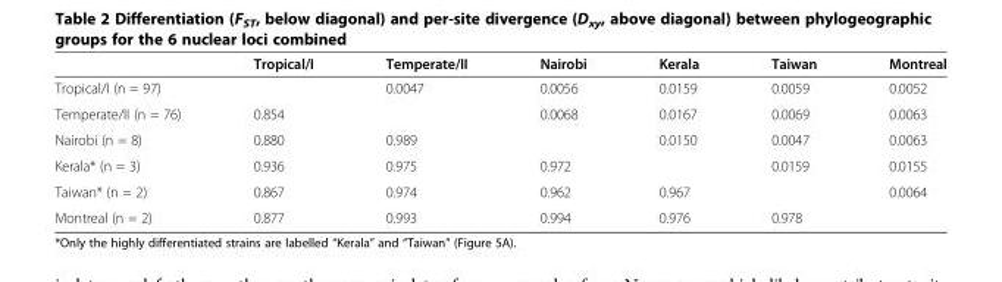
<table><thead><tr><td></td><td>Tropical/I</td><td>Temperate/II</td><td>Nairobi</td><td>Kerala</td><td>Taiwan</td><td>Montreal</td></tr></thead><tbody><tr><td>Tropical/I (n = 97)</td><td></td><td>0.0047</td><td>0.0056</td><td>0.0159</td><td>0.0059</td><td>0.0052</td></tr><tr><td>Temperate/II (n = 76)</td><td>0.854</td><td></td><td>0.0068</td><td>0.0167</td><td>0.0069</td><td>0.0063</td></tr><tr><td>Nairobi (n = 8)</td><td>0.880</td><td>0.989</td><td></td><td>0.0150</td><td>0.0047</td><td>0.0063</td></tr><tr><td>Kerala* (n = 3)</td><td>0.936</td><td>0.975</td><td>0.972</td><td></td><td>0.0159</td><td>0.0155</td></tr><tr><td>Taiwan* (n = 2)</td><td>0.867</td><td>0.974</td><td>0.962</td><td>0.967</td><td></td><td>0.0064</td></tr><tr><td>Montreal (n = 2)</td><td>0.877</td><td>0.993</td><td>0.994</td><td>0.976</td><td>0.978</td><td></td></tr></tbody></table>